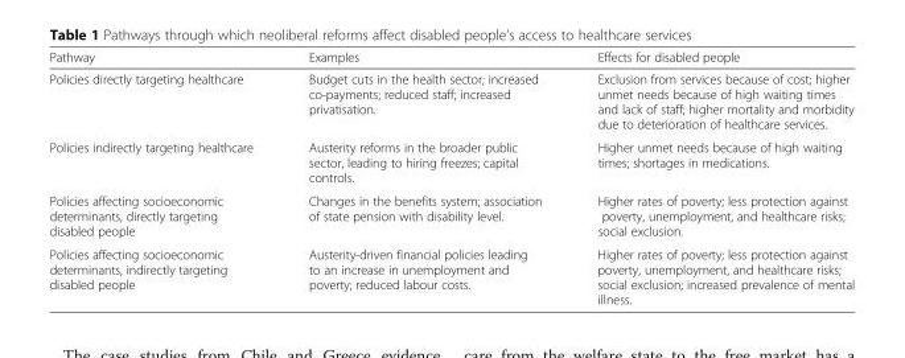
<table><thead><tr><td>Pathway</td><td>Examples</td><td>Effects for disabled people</td></tr></thead><tbody><tr><td>Policies directly targeting healthcare</td><td>Budget cuts in the health sector; increased co-payments; reduced staff; increased privatisation.</td><td>Exclusion from services because of cost; higher unmet needs because of high waiting times and lack of staff; higher mortality and morbidity due to deterioration of healthcare services.</td></tr><tr><td>Policies indirectly targeting healthcare</td><td>Austerity reforms in the broader public sector, leading to hiring freezes; capital controls.</td><td>Higher unmet needs because of high waiting times; shortages in medications.</td></tr><tr><td>Policies affecting socioeconomic determinants, directly targeting disabled people</td><td>Changes in the benefits system; association of state pension with disability level.</td><td>Higher rates of poverty; less protection against poverty, unemployment, and healthcare risks; social exclusion.</td></tr><tr><td>Policies affecting socioeconomic determinants, indirectly targeting disabled people</td><td>Austerity-driven financial policies leading to an increase in unemployment and poverty; reduced labour costs.</td><td>Higher rates of poverty; less protection against poverty, unemployment, and healthcare risks; social exclusion; increased prevalence of mental illness.</td></tr></tbody></table>